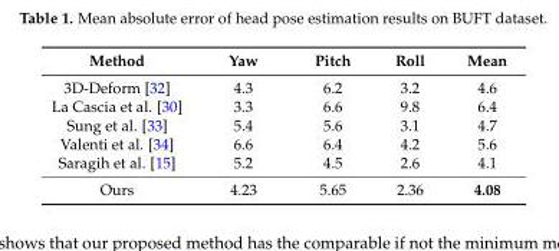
<table><thead><tr><td>Method</td><td>Yaw</td><td>Pitch</td><td>Roll</td><td>Mean</td></tr></thead><tbody><tr><td>3D-Deform [32]</td><td>4.3</td><td>6.2</td><td>3.2</td><td>4.6</td></tr><tr><td>La Cascia et al. [30]</td><td>3.3</td><td>6.6</td><td>9.8</td><td>6.4</td></tr><tr><td>Sung et al. [33]</td><td>5.4</td><td>5.6</td><td>3.1</td><td>4.7</td></tr><tr><td>Valenti et al. [34]</td><td>6.6</td><td>6.4</td><td>4.2</td><td>5.6</td></tr><tr><td>Saragih et al. [15]</td><td>5.2</td><td>4.5</td><td>2.6</td><td>4.1</td></tr><tr><td>Ours</td><td>4.23</td><td>5.65</td><td>2.36</td><td>4.08</td></tr></tbody></table>